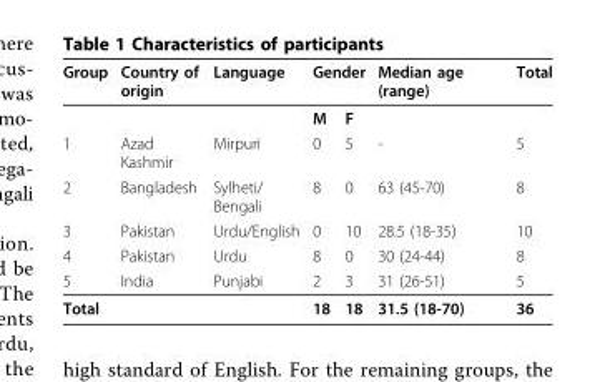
<table><thead><tr><td rowspan="2">Group</td><td rowspan="2">Country of origin</td><td rowspan="2">Language</td><td colspan="2">Gender</td><td rowspan="2">Median age (range)</td><td rowspan="2">Total</td></tr><tr><td>M</td><td>F</td></tr></thead><tbody><tr><td>1</td><td>Azad Kashmir</td><td>Mirpuri</td><td>0</td><td>5</td><td>-</td><td>5</td></tr><tr><td>2</td><td>Bangladesh</td><td>Sylheti/ Bengali</td><td>8</td><td>0</td><td>63 (45-70)</td><td>8</td></tr><tr><td>3</td><td>Pakistan</td><td>Urdu/English</td><td>0</td><td>10</td><td>28.5 (18-35)</td><td>10</td></tr><tr><td>4</td><td>Pakistan</td><td>Urdu</td><td>8</td><td>0</td><td>30 (24-44)</td><td>8</td></tr><tr><td>5</td><td>India</td><td>Punjabi</td><td>2</td><td>3</td><td>31 (26-51)</td><td>5</td></tr><tr><td>Total</td><td></td><td></td><td>18</td><td>18</td><td>31.5 (18-70)</td><td>36</td></tr></tbody></table>